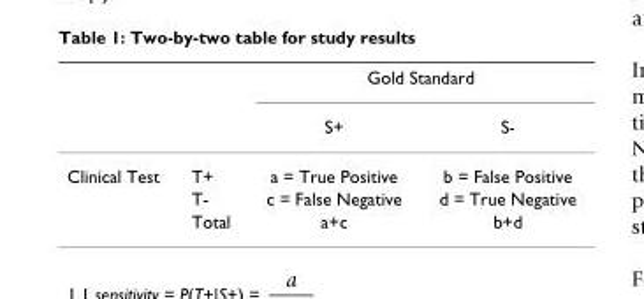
<table><thead><tr><td rowspan="2"></td><td rowspan="2"></td><td colspan="2">Gold Standard</td></tr><tr><td>S+</td><td>S-</td></tr></thead><tbody><tr><td rowspan="3">Clinical Test</td><td>T+</td><td>a = True Positive</td><td>b = False Positive</td></tr><tr><td>T-</td><td>c = False Negative</td><td>d = True Negative</td></tr><tr><td>Total</td><td>a+c</td><td>b+d</td></tr></tbody></table>